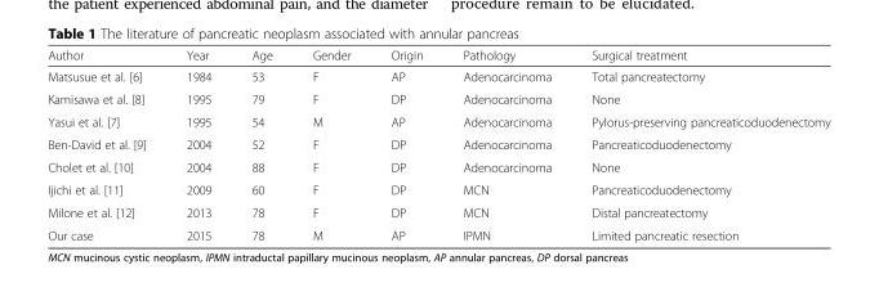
<table><thead><tr><td>Author</td><td>Year</td><td>Age</td><td>Gender</td><td>Origin</td><td>Pathology</td><td>Surgical treatment</td></tr></thead><tbody><tr><td>Matsusue et al. [6]</td><td>1984</td><td>53</td><td>F</td><td>AP</td><td>Adenocarcinoma</td><td>Total pancreatectomy</td></tr><tr><td>Kamisawa et al. [8]</td><td>1995</td><td>79</td><td>F</td><td>DP</td><td>Adenocarcinoma</td><td>None</td></tr><tr><td>Yasui et al. [7]</td><td>1995</td><td>54</td><td>M</td><td>AP</td><td>Adenocarcinoma</td><td>Pylorus-preserving pancreaticoduodenectomy</td></tr><tr><td>Ben-David et al. [9]</td><td>2004</td><td>52</td><td>F</td><td>DP</td><td>Adenocarcinoma</td><td>Pancreaticoduodenectomy</td></tr><tr><td>Cholet et al. [10]</td><td>2004</td><td>88</td><td>F</td><td>DP</td><td>Adenocarcinoma</td><td>None</td></tr><tr><td>Ijichi et al. [11]</td><td>2009</td><td>60</td><td>F</td><td>DP</td><td>MCN</td><td>Pancreaticoduodenectomy</td></tr><tr><td>Milone et al. [12]</td><td>2013</td><td>78</td><td>F</td><td>DP</td><td>MCN</td><td>Distal pancreatectomy</td></tr><tr><td>Our case</td><td>2015</td><td>78</td><td>M</td><td>AP</td><td>IPMN</td><td>Limited pancreatic resection</td></tr></tbody></table>